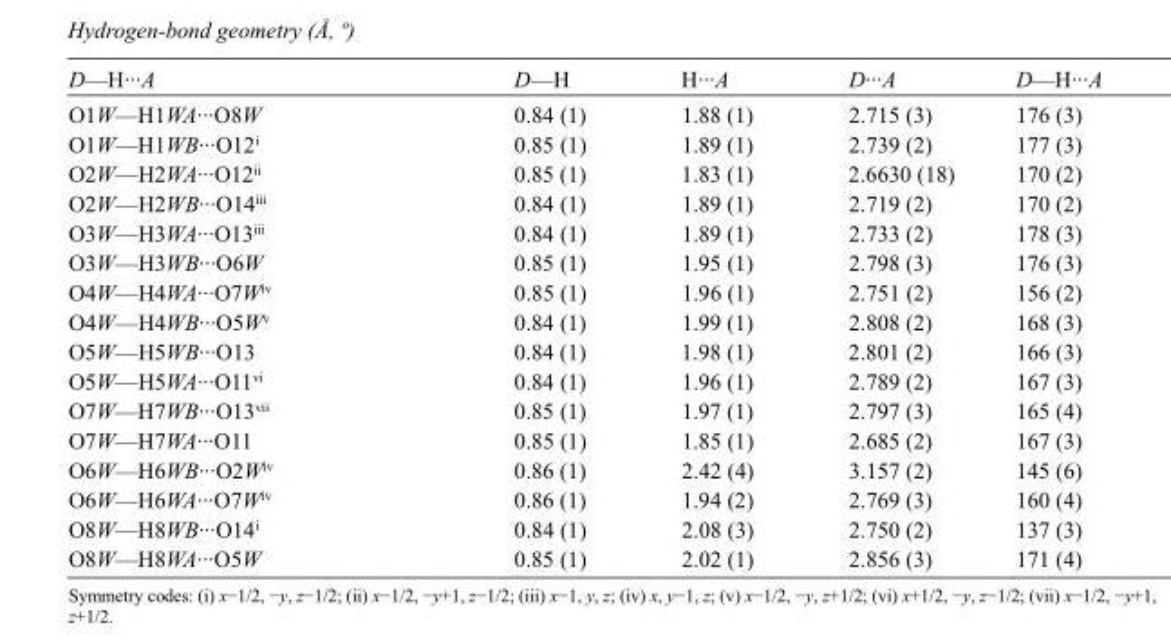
<table><tbody><tr><td>D—H···A</td><td>D—H</td><td>H···A</td><td>D···A</td><td>D—H···A</td></tr><tr><td>O1W—H1WA···O8W</td><td>0.84 (1)</td><td>1.88 (1)</td><td>2.715 (3)</td><td>176 (3)</td></tr><tr><td>O1W—H1WB···O12<sup>i</sup></td><td>0.85 (1)</td><td>1.89 (1)</td><td>2.739 (2)</td><td>177 (3)</td></tr><tr><td>O2W—H2WA···O12<sup>ii</sup></td><td>0.85 (1)</td><td>1.83 (1)</td><td>2.6630 (18)</td><td>170 (2)</td></tr><tr><td>O2W—H2WB···O14<sup>iii</sup></td><td>0.84 (1)</td><td>1.89 (1)</td><td>2.719 (2)</td><td>170 (2)</td></tr><tr><td>O3W—H3WA···O13<sup>iii</sup></td><td>0.84 (1)</td><td>1.89 (1)</td><td>2.733 (2)</td><td>178 (3)</td></tr><tr><td>O3W—H3WB···O6W</td><td>0.85 (1)</td><td>1.95 (1)</td><td>2.798 (3)</td><td>176 (3)</td></tr><tr><td>O4W—H4WA···O7W<sup>iv</sup></td><td>0.85 (1)</td><td>1.96 (1)</td><td>2.751 (2)</td><td>156 (2)</td></tr><tr><td>O4W—H4WB···O5W<sup>v</sup></td><td>0.84 (1)</td><td>1.99 (1)</td><td>2.808 (2)</td><td>168 (3)</td></tr><tr><td>O5W—H5WB···O13</td><td>0.84 (1)</td><td>1.98 (1)</td><td>2.801 (2)</td><td>166 (3)</td></tr><tr><td>O5W—H5WA···O11<sup>vi</sup></td><td>0.84 (1)</td><td>1.96 (1)</td><td>2.789 (2)</td><td>167 (3)</td></tr><tr><td>O7W—H7WB···O13<sup>vii</sup></td><td>0.85 (1)</td><td>1.97 (1)</td><td>2.797 (3)</td><td>165 (4)</td></tr><tr><td>O7W—H7WA···O11</td><td>0.85 (1)</td><td>1.85 (1)</td><td>2.685 (2)</td><td>167 (3)</td></tr><tr><td>O6W—H6WB···O2W<sup>iv</sup></td><td>0.86 (1)</td><td>2.42 (4)</td><td>3.157 (2)</td><td>145 (6)</td></tr><tr><td>O6W—H6WA···O7W<sup>iv</sup></td><td>0.86 (1)</td><td>1.94 (2)</td><td>2.769 (3)</td><td>160 (4)</td></tr><tr><td>O8W—H8WB···O14<sup>i</sup></td><td>0.84 (1)</td><td>2.08 (3)</td><td>2.750 (2)</td><td>137 (3)</td></tr><tr><td>O8W—H8WA···O5W</td><td>0.85 (1)</td><td>2.02 (1)</td><td>2.856 (3)</td><td>171 (4)</td></tr></tbody></table>